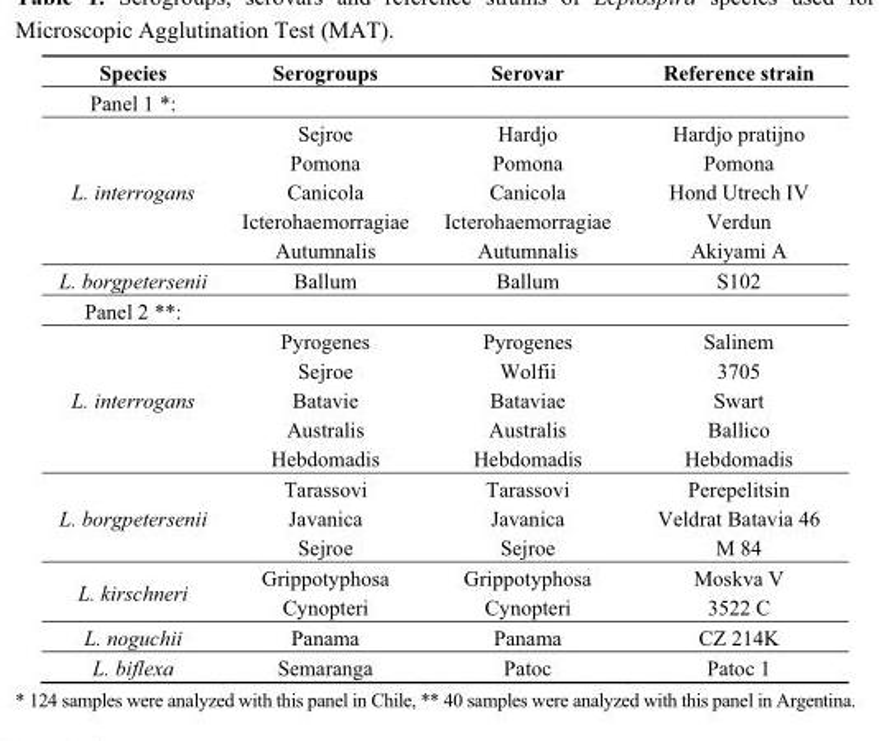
<table><thead><tr><td>Species</td><td>Serogroups</td><td>Serovar</td><td>Reference strain</td></tr></thead><tbody><tr><td colspan="4">Panel 1 *:</td></tr><tr><td rowspan="5">L. interrogans</td><td>Sejroe</td><td>Hardjo</td><td>Hardjo pratijno</td></tr><tr><td>Pomona</td><td>Pomona</td><td>Pomona</td></tr><tr><td>Canicola</td><td>Canicola</td><td>Hond Utrech IV</td></tr><tr><td>Icterohaemorragiae</td><td>Icterohaemorragiae</td><td>Verdun</td></tr><tr><td>Autumnalis</td><td>Autumnalis</td><td>Akiyami A</td></tr><tr><td>L. borgpetersenii</td><td>Ballum</td><td>Ballum</td><td>S102</td></tr><tr><td colspan="4">Panel 2 **:</td></tr><tr><td rowspan="5">L. interrogans</td><td>Pyrogenes</td><td>Pyrogenes</td><td>Salinem</td></tr><tr><td>Sejroe</td><td>Wolfii</td><td>3705</td></tr><tr><td>Batavie</td><td>Bataviae</td><td>Swart</td></tr><tr><td>Australis</td><td>Australis</td><td>Ballico</td></tr><tr><td>Hebdomadis</td><td>Hebdomadis</td><td>Hebdomadis</td></tr><tr><td rowspan="3">L. borgpetersenii</td><td>Tarassovi</td><td>Tarassovi</td><td>Perepelitsin</td></tr><tr><td>Javanica</td><td>Javanica</td><td>Veldrat Batavia 46</td></tr><tr><td>Sejroe</td><td>Sejroe</td><td>M 84</td></tr><tr><td rowspan="2">L. kirschneri</td><td>Grippotyphosa</td><td>Grippotyphosa</td><td>Moskva V</td></tr><tr><td>Cynopteri</td><td>Cynopteri</td><td>3522 C</td></tr><tr><td>L. noguchii</td><td>Panama</td><td>Panama</td><td>CZ 214K</td></tr><tr><td>L. biflexa</td><td>Semaranga</td><td>Patoc</td><td>Patoc 1</td></tr></tbody></table>